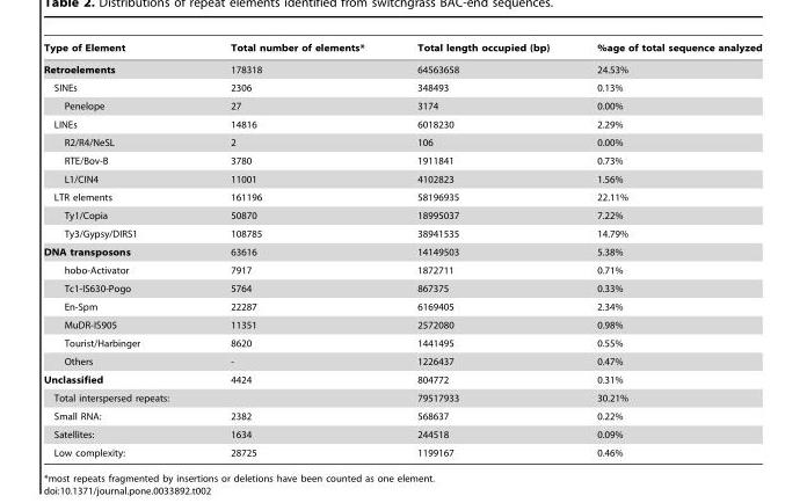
<table><thead><tr><td>Type of Element</td><td>Total number of elements*</td><td>Total length occupied (bp)</td><td>%age of total sequence analyzed</td></tr></thead><tbody><tr><td>Retroelements</td><td>178318</td><td>64563658</td><td>24.53%</td></tr><tr><td>SINEs</td><td>2306</td><td>348493</td><td>0.13%</td></tr><tr><td>Penelope</td><td>27</td><td>3174</td><td>0.00%</td></tr><tr><td>LINEs</td><td>14816</td><td>6018230</td><td>2.29%</td></tr><tr><td>R2/R4/NeSL</td><td>2</td><td>106</td><td>0.00%</td></tr><tr><td>RTE/Bov-B</td><td>3780</td><td>1911841</td><td>0.73%</td></tr><tr><td>L1/CIN4</td><td>11001</td><td>4102823</td><td>1.56%</td></tr><tr><td>LTR elements</td><td>161196</td><td>58196935</td><td>22.11%</td></tr><tr><td>Ty1/Copia</td><td>50870</td><td>18995037</td><td>7.22%</td></tr><tr><td>Ty3/Gypsy/DIRS1</td><td>108785</td><td>38941535</td><td>14.79%</td></tr><tr><td>DNA transposons</td><td>63616</td><td>14149503</td><td>5.38%</td></tr><tr><td>hobo-Activator</td><td>7917</td><td>1872711</td><td>0.71%</td></tr><tr><td>Tc1-IS630-Pogo</td><td>5764</td><td>867375</td><td>0.33%</td></tr><tr><td>En-Spm</td><td>22287</td><td>6169405</td><td>2.34%</td></tr><tr><td>MuDR-IS905</td><td>11351</td><td>2572080</td><td>0.98%</td></tr><tr><td>Tourist/Harbinger</td><td>8620</td><td>1441495</td><td>0.55%</td></tr><tr><td>Others</td><td>-</td><td>1226437</td><td>0.47%</td></tr><tr><td>Unclassified</td><td>4424</td><td>804772</td><td>0.31%</td></tr><tr><td>Total interspersed repeats:</td><td></td><td>79517933</td><td>30.21%</td></tr><tr><td>Small RNA:</td><td>2382</td><td>568637</td><td>0.22%</td></tr><tr><td>Satellites:</td><td>1634</td><td>244518</td><td>0.09%</td></tr><tr><td>Low complexity:</td><td>28725</td><td>1199167</td><td>0.46%</td></tr></tbody></table>